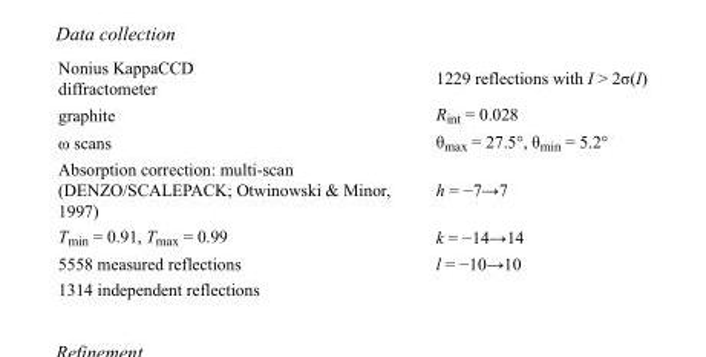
<table><tbody><tr><td>Nonius KappaCCD diffractometer</td><td>1229 reflections with I &gt; 2σ(I)</td></tr><tr><td>graphite</td><td>R<sub>int</sub> = 0.028</td></tr><tr><td>ω scans</td><td>θ<sub>max</sub> = 27.5°, θ<sub>min</sub> = 5.2°</td></tr><tr><td>Absorption correction: multi-scan (DENZO/SCALEPACK; Otwinowski &amp; Minor, 1997)</td><td>h = −7→7</td></tr><tr><td>T<sub>min</sub> = 0.91, T<sub>max</sub> = 0.99</td><td>k = −14→14</td></tr><tr><td>5558 measured reflections</td><td>l = −10→10</td></tr><tr><td>1314 independent reflections</td><td></td></tr></tbody></table>